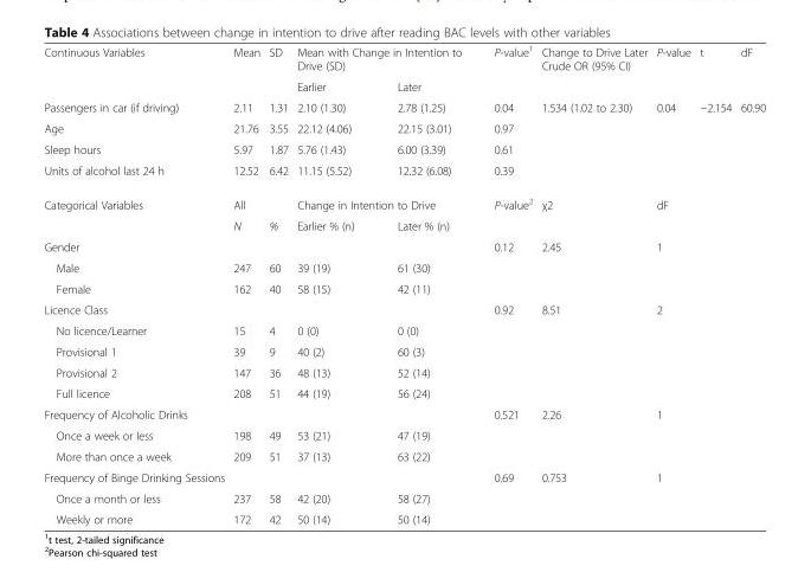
<table><tbody><tr><td rowspan="2">Continuous Variables</td><td>Mean</td><td>SD</td><td colspan="2">Mean with Change in Intention to Drive (SD)</td><td>P-value<sup>1</sup></td><td>Change to Drive Later Crude OR (95% CI)</td><td>P-value</td><td>t</td><td>dF</td></tr><tr><td></td><td></td><td>Earlier</td><td>Later</td><td></td><td></td><td></td><td></td><td></td></tr><tr><td>Passengers in car (if driving)</td><td>2.11</td><td>1.31</td><td>2.10 (1.30)</td><td>2.78 (1.25)</td><td>0.04</td><td>1.534 (1.02 to 2.30)</td><td>0.04</td><td>−2.154</td><td>60.90</td></tr><tr><td>Age</td><td>21.76</td><td>3.55</td><td>22.12 (4.06)</td><td>22.15 (3.01)</td><td>0.97</td><td></td><td></td><td></td><td></td></tr><tr><td>Sleep hours</td><td>5.97</td><td>1.87</td><td>5.76 (1.43)</td><td>6.00 (3.39)</td><td>0.61</td><td></td><td></td><td></td><td></td></tr><tr><td>Units of alcohol last 24 h</td><td>12.52</td><td>6.42</td><td>11.15 (5.52)</td><td>12.32 (6.08)</td><td>0.39</td><td></td><td></td><td></td><td></td></tr><tr><td rowspan="2">Categorical Variables</td><td colspan="2">All</td><td colspan="2">Change in Intention to Drive</td><td>P-value<sup>2</sup></td><td>χ2</td><td>dF</td><td></td><td></td></tr><tr><td>N</td><td>%</td><td>Earlier % (n)</td><td>Later % (n)</td><td></td><td></td><td></td><td></td><td></td></tr><tr><td>Gender</td><td></td><td></td><td></td><td></td><td>0.12</td><td>2.45</td><td>1</td><td></td><td></td></tr><tr><td>Male</td><td>247</td><td>60</td><td>39 (19)</td><td>61 (30)</td><td></td><td></td><td></td><td></td><td></td></tr><tr><td>Female</td><td>162</td><td>40</td><td>58 (15)</td><td>42 (11)</td><td></td><td></td><td></td><td></td><td></td></tr><tr><td>Licence Class</td><td></td><td></td><td></td><td></td><td>0.92</td><td>8.51</td><td>2</td><td></td><td></td></tr><tr><td>No licence/Learner</td><td>15</td><td>4</td><td>0 (0)</td><td>0 (0)</td><td></td><td></td><td></td><td></td><td></td></tr><tr><td>Provisional 1</td><td>39</td><td>9</td><td>40 (2)</td><td>60 (3)</td><td></td><td></td><td></td><td></td><td></td></tr><tr><td>Provisional 2</td><td>147</td><td>36</td><td>48 (13)</td><td>52 (14)</td><td></td><td></td><td></td><td></td><td></td></tr><tr><td>Full licence</td><td>208</td><td>51</td><td>44 (19)</td><td>56 (24)</td><td></td><td></td><td></td><td></td><td></td></tr><tr><td>Frequency of Alcoholic Drinks</td><td></td><td></td><td></td><td></td><td>0.521</td><td>2.26</td><td>1</td><td></td><td></td></tr><tr><td>Once a week or less</td><td>198</td><td>49</td><td>53 (21)</td><td>47 (19)</td><td></td><td></td><td></td><td></td><td></td></tr><tr><td>More than once a week</td><td>209</td><td>51</td><td>37 (13)</td><td>63 (22)</td><td></td><td></td><td></td><td></td><td></td></tr><tr><td>Frequency of Binge Drinking Sessions</td><td></td><td></td><td></td><td></td><td>0.69</td><td>0.753</td><td>1</td><td></td><td></td></tr><tr><td>Once a month or less</td><td>237</td><td>58</td><td>42 (20)</td><td>58 (27)</td><td></td><td></td><td></td><td></td><td></td></tr><tr><td>Weekly or more</td><td>172</td><td>42</td><td>50 (14)</td><td>50 (14)</td><td></td><td></td><td></td><td></td><td></td></tr></tbody></table>